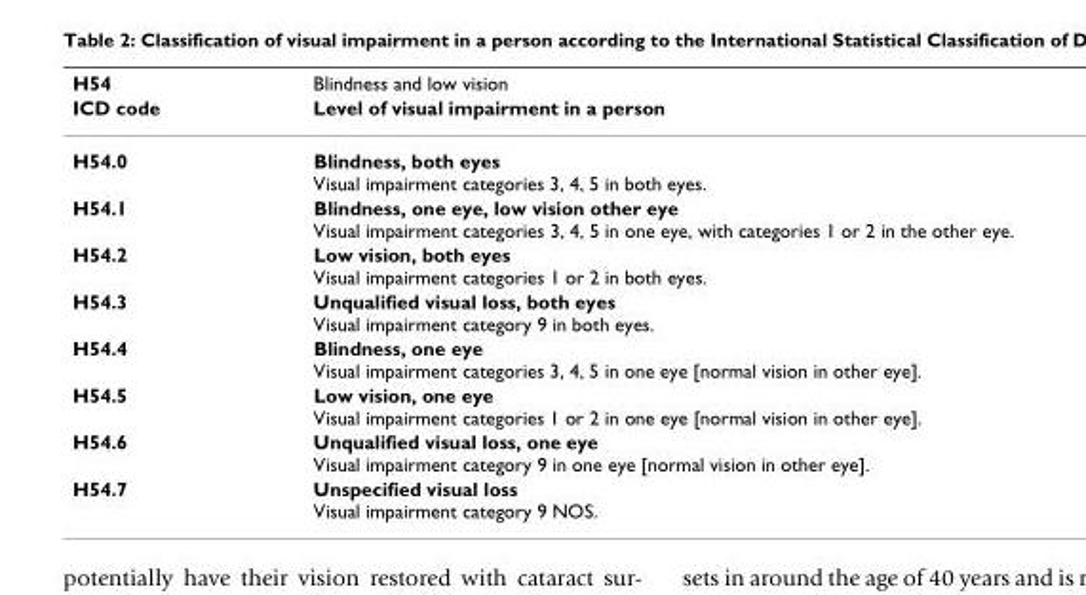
<table><thead><tr><td rowspan="2">H54 ICD code</td><td rowspan="2">Blindness and low vision Level of visual impairment in a person</td></tr><tr></tr></thead><tbody><tr><td>H54.0</td><td>Blindness, both eyes Visual impairment categories 3, 4, 5 in both eyes.</td></tr><tr><td>H54.1</td><td>Blindness, one eye, low vision other eye Visual impairment categories 3, 4, 5 in one eye, with categories 1 or 2 in the other eye.</td></tr><tr><td>H54.2</td><td>Low vision, both eyes Visual impairment categories 1 or 2 in both eyes.</td></tr><tr><td>H54.3</td><td>Unqualified visual loss, both eyes Visual impairment category 9 in both eyes.</td></tr><tr><td>H54.4</td><td>Blindness, one eye Visual impairment categories 3, 4, 5 in one eye [normal vision in other eye].</td></tr><tr><td>H54.5</td><td>Low vision, one eye Visual impairment categories 1 or 2 in one eye [normal vision in other eye].</td></tr><tr><td>H54.6</td><td>Unqualified visual loss, one eye Visual impairment category 9 in one eye [normal vision in other eye].</td></tr><tr><td>H54.7</td><td>Unspecified visual loss Visual impairment category 9 NOS.</td></tr></tbody></table>